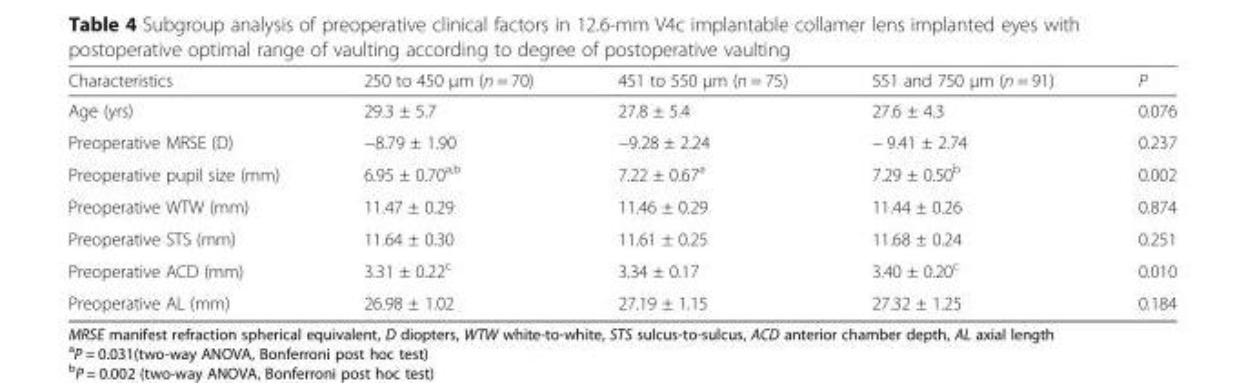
<table><thead><tr><td>Characteristics</td><td>250 to 450 μm (n = 70)</td><td>451 to 550 μm (n = 75)</td><td>551 and 750 μm (n = 91)</td><td>P</td></tr></thead><tbody><tr><td>Age (yrs)</td><td>29.3 ± 5.7</td><td>27.8 ± 5.4</td><td>27.6 ± 4.3</td><td>0.076</td></tr><tr><td>Preoperative MRSE (D)</td><td>−8.79 ± 1.90</td><td>−9.28 ± 2.24</td><td>− 9.41 ± 2.74</td><td>0.237</td></tr><tr><td>Preoperative pupil size (mm)</td><td>6.95 ± 0.70<sup>a,b</sup></td><td>7.22 ± 0.67<sup>a</sup></td><td>7.29 ± 0.50<sup>b</sup></td><td>0.002</td></tr><tr><td>Preoperative WTW (mm)</td><td>11.47 ± 0.29</td><td>11.46 ± 0.29</td><td>11.44 ± 0.26</td><td>0.874</td></tr><tr><td>Preoperative STS (mm)</td><td>11.64 ± 0.30</td><td>11.61 ± 0.25</td><td>11.68 ± 0.24</td><td>0.251</td></tr><tr><td>Preoperative ACD (mm)</td><td>3.31 ± 0.22<sup>c</sup></td><td>3.34 ± 0.17</td><td>3.40 ± 0.20<sup>c</sup></td><td>0.010</td></tr><tr><td>Preoperative AL (mm)</td><td>26.98 ± 1.02</td><td>27.19 ± 1.15</td><td>27.32 ± 1.25</td><td>0.184</td></tr></tbody></table>